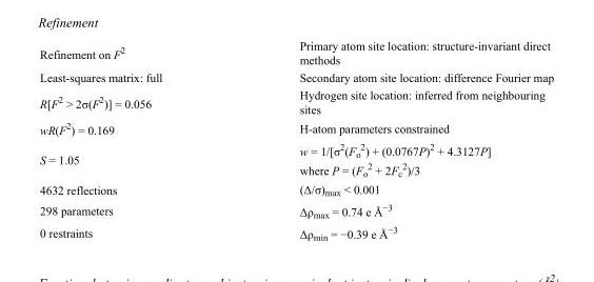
<table><tbody><tr><td>Refinement on F<sup>2</sup></td><td>Primary atom site location: structure-invariant direct methods</td></tr><tr><td>Least-squares matrix: full</td><td>Secondary atom site location: difference Fourier map</td></tr><tr><td>R[F<sup>2</sup> &gt; 2σ(F<sup>2</sup>)] = 0.056</td><td>Hydrogen site location: inferred from neighbouring sites</td></tr><tr><td>wR(F<sup>2</sup>) = 0.169</td><td>H-atom parameters constrained</td></tr><tr><td>S = 1.05</td><td>w = 1/[σ<sup>2</sup>(F<sub>o</sub> <sup>2</sup>) + (0.0767P)<sup>2</sup> + 4.3127P] where P = (F<sub>o</sub> <sup>2</sup> + 2F<sub>c</sub> <sup>2</sup>)/3</td></tr><tr><td>4632 reflections</td><td>(Δ/σ)<sub>max</sub> &lt; 0.001</td></tr><tr><td>298 parameters</td><td>Δρ<sub>max</sub> = 0.74 e Å<sup>−3</sup></td></tr><tr><td>0 restraints</td><td>Δρ<sub>min</sub> = −0.39 e Å<sup>−3</sup></td></tr></tbody></table>